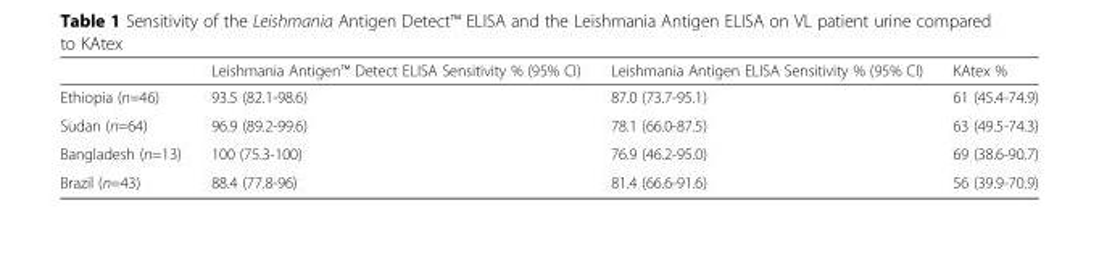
<table><thead><tr><td></td><td>Leishmania Antigen™ Detect ELISA Sensitivity % (95% CI)</td><td>Leishmania Antigen ELISA Sensitivity % (95% CI)</td><td>KAtex %</td></tr></thead><tbody><tr><td>Ethiopia (n=46)</td><td>93.5 (82.1-98.6)</td><td>87.0 (73.7-95.1)</td><td>61 (45.4-74.9)</td></tr><tr><td>Sudan (n=64)</td><td>96.9 (89.2-99.6)</td><td>78.1 (66.0-87.5)</td><td>63 (49.5-74.3)</td></tr><tr><td>Bangladesh (n=13)</td><td>100 (75.3-100)</td><td>76.9 (46.2-95.0)</td><td>69 (38.6-90.7)</td></tr><tr><td>Brazil (n=43)</td><td>88.4 (77.8-96)</td><td>81.4 (66.6-91.6)</td><td>56 (39.9-70.9)</td></tr></tbody></table>